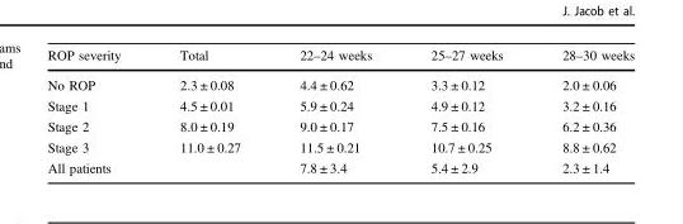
<table><thead><tr><td>ROP severity</td><td>Total</td><td>22–24 weeks</td><td>25–27 weeks</td><td>28–30 weeks</td></tr></thead><tbody><tr><td>No ROP</td><td>2.3 ± 0.08</td><td>4.4 ± 0.62</td><td>3.3 ± 0.12</td><td>2.0 ± 0.06</td></tr><tr><td>Stage 1</td><td>4.5 ± 0.01</td><td>5.9 ± 0.24</td><td>4.9 ± 0.12</td><td>3.2 ± 0.16</td></tr><tr><td>Stage 2</td><td>8.0 ± 0.19</td><td>9.0 ± 0.17</td><td>7.5 ± 0.16</td><td>6.2 ± 0.36</td></tr><tr><td>Stage 3</td><td>11.0 ± 0.27</td><td>11.5 ± 0.21</td><td>10.7 ± 0.25</td><td>8.8 ± 0.62</td></tr><tr><td>All patients</td><td></td><td>7.8 ± 3.4</td><td>5.4 ± 2.9</td><td>2.3 ± 1.4</td></tr></tbody></table>